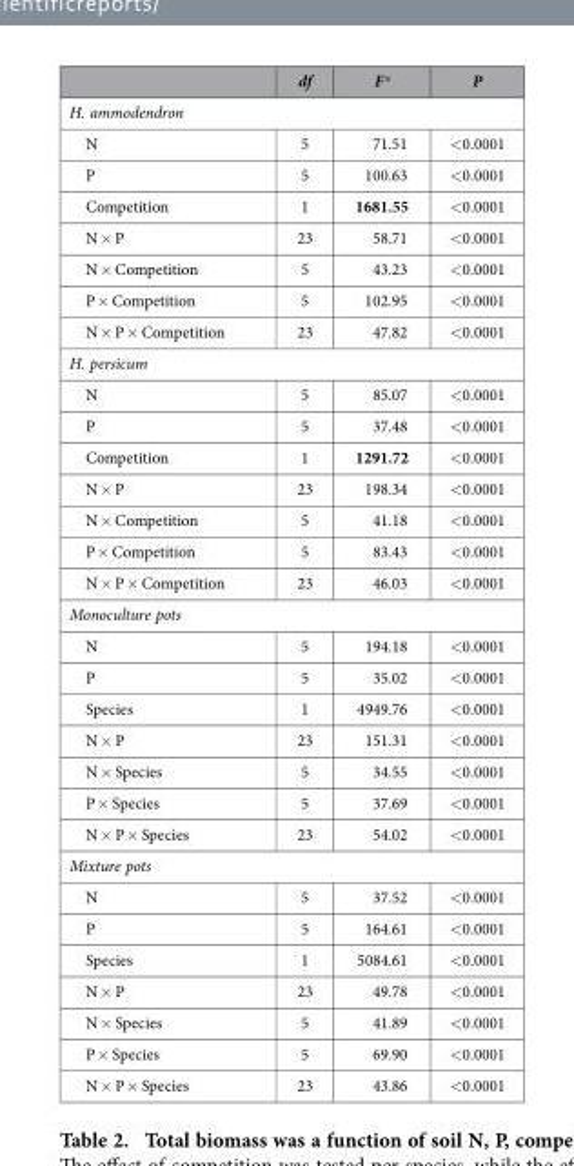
<table><thead><tr><td></td><td>df</td><td>F a</td><td>P</td></tr></thead><tbody><tr><td colspan="4">H. ammodendron</td></tr><tr><td>N</td><td>5</td><td>71.51</td><td>&lt;0.0001</td></tr><tr><td>P</td><td>5</td><td>100.63</td><td>&lt;0.0001</td></tr><tr><td>Competition</td><td>1</td><td>1681.55</td><td>&lt;0.0001</td></tr><tr><td>N × P</td><td>23</td><td>58.71</td><td>&lt;0.0001</td></tr><tr><td>N × Competition</td><td>5</td><td>43.23</td><td>&lt;0.0001</td></tr><tr><td>P × Competition</td><td>5</td><td>102.95</td><td>&lt;0.0001</td></tr><tr><td>N × P × Competition</td><td>23</td><td>47.82</td><td>&lt;0.0001</td></tr><tr><td colspan="4">H. persicum</td></tr><tr><td>N</td><td>5</td><td>85.07</td><td>&lt;0.0001</td></tr><tr><td>P</td><td>5</td><td>37.48</td><td>&lt;0.0001</td></tr><tr><td>Competition</td><td>1</td><td>1291.72</td><td>&lt;0.0001</td></tr><tr><td>N × P</td><td>23</td><td>198.34</td><td>&lt;0.0001</td></tr><tr><td>N × Competition</td><td>5</td><td>41.18</td><td>&lt;0.0001</td></tr><tr><td>P × Competition</td><td>5</td><td>83.43</td><td>&lt;0.0001</td></tr><tr><td>N × P × Competition</td><td>23</td><td>46.03</td><td>&lt;0.0001</td></tr><tr><td colspan="4">Monoculture pots</td></tr><tr><td>N</td><td>5</td><td>194.18</td><td>&lt;0.0001</td></tr><tr><td>P</td><td>5</td><td>35.02</td><td>&lt;0.0001</td></tr><tr><td>Species</td><td>1</td><td>4949.76</td><td>&lt;0.0001</td></tr><tr><td>N × P</td><td>23</td><td>151.31</td><td>&lt;0.0001</td></tr><tr><td>N × Species</td><td>5</td><td>34.55</td><td>&lt;0.0001</td></tr><tr><td>P × Species</td><td>5</td><td>37.69</td><td>&lt;0.0001</td></tr><tr><td>N × P × Species</td><td>23</td><td>54.02</td><td>&lt;0.0001</td></tr><tr><td colspan="4">Mixture pots</td></tr><tr><td>N</td><td>5</td><td>37.52</td><td>&lt;0.0001</td></tr><tr><td>P</td><td>5</td><td>164.61</td><td>&lt;0.0001</td></tr><tr><td>Species</td><td>1</td><td>5084.61</td><td>&lt;0.0001</td></tr><tr><td>N × P</td><td>23</td><td>49.78</td><td>&lt;0.0001</td></tr><tr><td>N × Species</td><td>5</td><td>41.89</td><td>&lt;0.0001</td></tr><tr><td>P × Species</td><td>5</td><td>69.90</td><td>&lt;0.0001</td></tr><tr><td>N × P × Species</td><td>23</td><td>43.86</td><td>&lt;0.0001</td></tr></tbody></table>